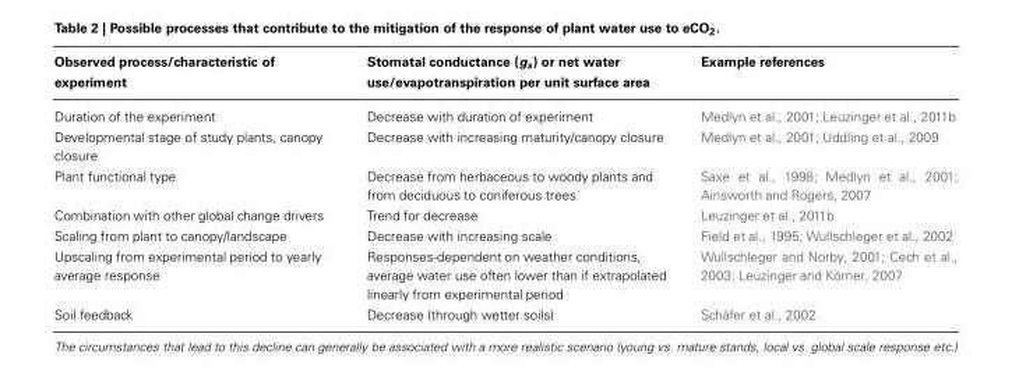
<table><thead><tr><td>Observed process/characteristic of experiment</td><td>Stomatal conductance (g<sub>s</sub>) or net water use/evapotranspiration per unit surface area</td><td>Example references</td></tr></thead><tbody><tr><td>Duration of the experiment</td><td>Decrease with duration of experiment</td><td>Medlyn et al., 2001; Leuzinger et al., 2011b</td></tr><tr><td>Developmental stage of study plants, canopy closure</td><td>Decrease with increasing maturity/canopy closure</td><td>Medlyn et al., 2001; Uddling et al., 2009</td></tr><tr><td>Plant functional type</td><td>Decrease from herbaceous to woody plants and from deciduous to coniferous trees</td><td>Saxe et al., 1998; Medlyn et al., 2001; Ainsworth and Rogers, 2007</td></tr><tr><td>Combination with other global change drivers</td><td>Trend for decrease</td><td>Leuzinger et al., 2011b</td></tr><tr><td>Scaling from plant to canopy/landscape</td><td>Decrease with increasing scale</td><td>Field et al., 1995; Wullschleger et al., 2002</td></tr><tr><td>Upscaling from experimental period to yearly average response</td><td>Responses-dependent on weather conditions, average water use often lower than if extrapolated linearly from experimental period</td><td>Wullschleger and Norby, 2001; Cech et al., 2003; Leuzinger and Körner, 2007</td></tr><tr><td>Soil feedback</td><td>Decrease (through wetter soils)</td><td>Schäfer et al., 2002</td></tr></tbody></table>